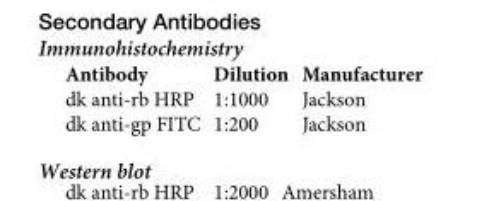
<table><tbody><tr><td>Antibody</td><td>Dilution</td><td>Manufacturer</td></tr><tr><td>dk anti-rb HRP</td><td>1:1000</td><td>Jackson</td></tr><tr><td>dk anti-gp FITC</td><td>1:200</td><td>Jackson</td></tr></tbody></table>